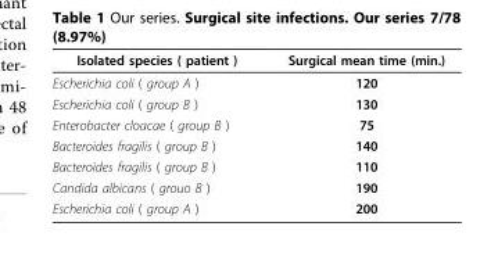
<table><thead><tr><td>Isolated species ( patient )</td><td>Surgical mean time (min.)</td></tr></thead><tbody><tr><td>Escherichia coli ( group A )</td><td>120</td></tr><tr><td>Escherichia coli ( group B )</td><td>130</td></tr><tr><td>Enterobacter cloacae ( group B )</td><td>75</td></tr><tr><td>Bacteroides fragilis ( group B )</td><td>140</td></tr><tr><td>Bacteroides fragilis ( group B )</td><td>110</td></tr><tr><td>Candida albicans ( grouo B )</td><td>190</td></tr><tr><td>Escherichia coli ( group A )</td><td>200</td></tr></tbody></table>